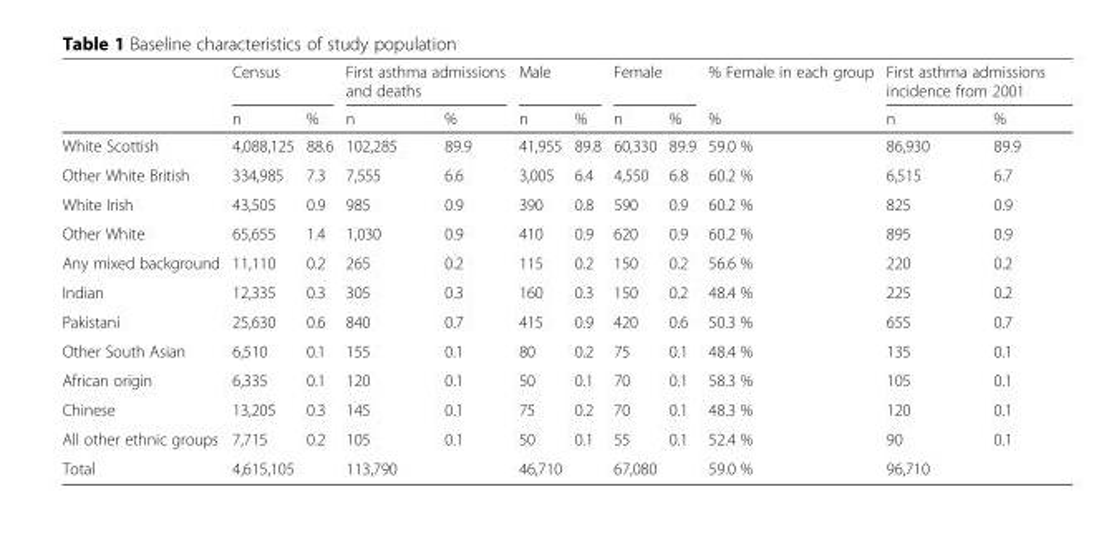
<table><thead><tr><td rowspan="2"></td><td colspan="2">Census</td><td colspan="2">First asthma admissions and deaths</td><td colspan="2">Male</td><td colspan="2">Female</td><td rowspan="2">% Female in each group %</td><td colspan="2">First asthma admissions incidence from 2001</td></tr><tr><td>n</td><td>%</td><td>n</td><td>%</td><td>n</td><td>%</td><td>n</td><td>%</td><td>n</td><td>%</td></tr></thead><tbody><tr><td>White Scottish</td><td>4,088,125</td><td>88.6</td><td>102,285</td><td>89.9</td><td>41,955</td><td>89.8</td><td>60,330</td><td>89.9</td><td>59.0 %</td><td>86,930</td><td>89.9</td></tr><tr><td>Other White British</td><td>334,985</td><td>7.3</td><td>7,555</td><td>6.6</td><td>3,005</td><td>6.4</td><td>4,550</td><td>6.8</td><td>60.2 %</td><td>6,515</td><td>6.7</td></tr><tr><td>White Irish</td><td>43,505</td><td>0.9</td><td>985</td><td>0.9</td><td>390</td><td>0.8</td><td>590</td><td>0.9</td><td>60.2 %</td><td>825</td><td>0.9</td></tr><tr><td>Other White</td><td>65,655</td><td>1.4</td><td>1,030</td><td>0.9</td><td>410</td><td>0.9</td><td>620</td><td>0.9</td><td>60.2 %</td><td>895</td><td>0.9</td></tr><tr><td>Any mixed background</td><td>11,110</td><td>0.2</td><td>265</td><td>0.2</td><td>115</td><td>0.2</td><td>150</td><td>0.2</td><td>56.6 %</td><td>220</td><td>0.2</td></tr><tr><td>Indian</td><td>12,335</td><td>0.3</td><td>305</td><td>0.3</td><td>160</td><td>0.3</td><td>150</td><td>0.2</td><td>48.4 %</td><td>225</td><td>0.2</td></tr><tr><td>Pakistani</td><td>25,630</td><td>0.6</td><td>840</td><td>0.7</td><td>415</td><td>0.9</td><td>420</td><td>0.6</td><td>50.3 %</td><td>655</td><td>0.7</td></tr><tr><td>Other South Asian</td><td>6,510</td><td>0.1</td><td>155</td><td>0.1</td><td>80</td><td>0.2</td><td>75</td><td>0.1</td><td>48.4 %</td><td>135</td><td>0.1</td></tr><tr><td>African origin</td><td>6,335</td><td>0.1</td><td>120</td><td>0.1</td><td>50</td><td>0.1</td><td>70</td><td>0.1</td><td>58.3 %</td><td>105</td><td>0.1</td></tr><tr><td>Chinese</td><td>13,205</td><td>0.3</td><td>145</td><td>0.1</td><td>75</td><td>0.2</td><td>70</td><td>0.1</td><td>48.3 %</td><td>120</td><td>0.1</td></tr><tr><td>All other ethnic groups</td><td>7,715</td><td>0.2</td><td>105</td><td>0.1</td><td>50</td><td>0.1</td><td>55</td><td>0.1</td><td>52.4 %</td><td>90</td><td>0.1</td></tr><tr><td>Total</td><td>4,615,105</td><td></td><td>113,790</td><td></td><td>46,710</td><td></td><td>67,080</td><td></td><td>59.0 %</td><td>96,710</td><td></td></tr></tbody></table>